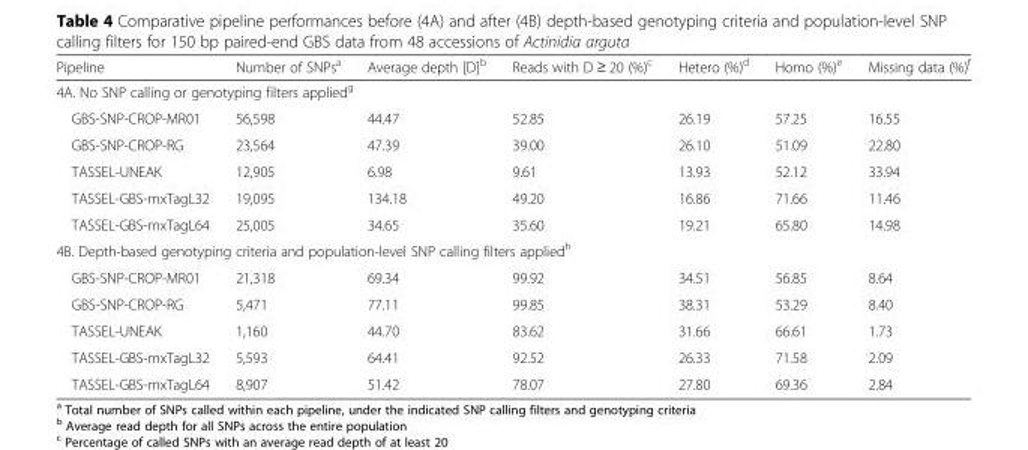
<table><thead><tr><td>Pipeline</td><td>Number of SNPs<sup>a</sup></td><td>Average depth [D]<sup>b</sup></td><td>Reads with D ≥ 20 (%)<sup>c</sup></td><td>Hetero (%)<sup>d</sup></td><td>Homo (%)<sup>e</sup></td><td>Missing data (%)<sup>f</sup></td></tr></thead><tbody><tr><td colspan="7">4A. No SNP calling or genotyping filters applied<sup>g</sup></td></tr><tr><td>GBS-SNP-CROP-MR01</td><td>56,598</td><td>44.47</td><td>52.85</td><td>26.19</td><td>57.25</td><td>16.55</td></tr><tr><td>GBS-SNP-CROP-RG</td><td>23,564</td><td>47.39</td><td>39.00</td><td>26.10</td><td>51.09</td><td>22.80</td></tr><tr><td>TASSEL-UNEAK</td><td>12,905</td><td>6.98</td><td>9.61</td><td>13.93</td><td>52.12</td><td>33.94</td></tr><tr><td>TASSEL-GBS-mxTagL32</td><td>19,095</td><td>134.18</td><td>49.20</td><td>16.86</td><td>71.66</td><td>11.46</td></tr><tr><td>TASSEL-GBS-mxTagL64</td><td>25,005</td><td>34.65</td><td>35.60</td><td>19.21</td><td>65.80</td><td>14.98</td></tr><tr><td colspan="7">4B. Depth-based genotyping criteria and population-level SNP calling filters applied<sup>h</sup></td></tr><tr><td>GBS-SNP-CROP-MR01</td><td>21,318</td><td>69.34</td><td>99.92</td><td>34.51</td><td>56.85</td><td>8.64</td></tr><tr><td>GBS-SNP-CROP-RG</td><td>5,471</td><td>77.11</td><td>99.85</td><td>38.31</td><td>53.29</td><td>8.40</td></tr><tr><td>TASSEL-UNEAK</td><td>1,160</td><td>44.70</td><td>83.62</td><td>31.66</td><td>66.61</td><td>1.73</td></tr><tr><td>TASSEL-GBS-mxTagL32</td><td>5,593</td><td>64.41</td><td>92.52</td><td>26.33</td><td>71.58</td><td>2.09</td></tr><tr><td>TASSEL-GBS-mxTagL64</td><td>8,907</td><td>51.42</td><td>78.07</td><td>27.80</td><td>69.36</td><td>2.84</td></tr></tbody></table>